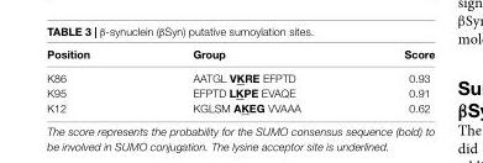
<table><thead><tr><td>Position</td><td>Group</td><td>Score</td></tr></thead><tbody><tr><td>K86</td><td>AATGL VKRE EFPTD</td><td>0.93</td></tr><tr><td>K95</td><td>EFPTD LKPE EVAQE</td><td>0.91</td></tr><tr><td>K12</td><td>KGLSM AKEG VVAAA</td><td>0.62</td></tr></tbody></table>